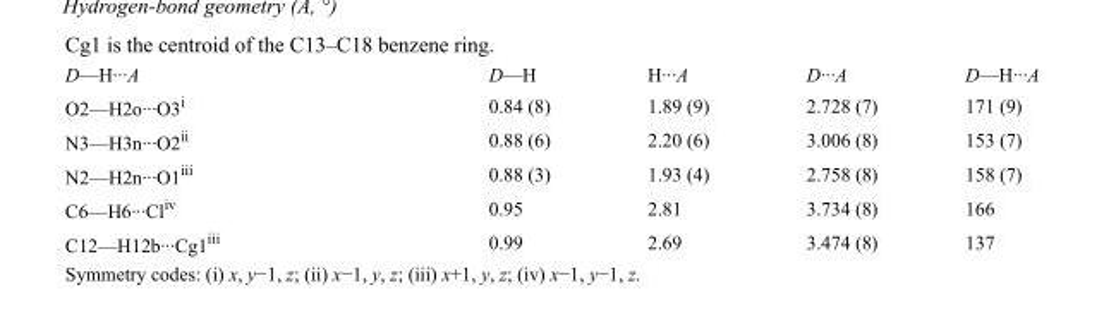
<table><tbody><tr><td>D—H···A</td><td>D—H</td><td>H···A</td><td>D···A</td><td>D—H···A</td></tr><tr><td>O2—H2o···O3<sup>i</sup></td><td>0.84 (8)</td><td>1.89 (9)</td><td>2.728 (7)</td><td>171 (9)</td></tr><tr><td>N3—H3n···O2<sup>ii</sup></td><td>0.88 (6)</td><td>2.20 (6)</td><td>3.006 (8)</td><td>153 (7)</td></tr><tr><td>N2—H2n···O1<sup>iii</sup></td><td>0.88 (3)</td><td>1.93 (4)</td><td>2.758 (8)</td><td>158 (7)</td></tr><tr><td>C6—H6···Cl<sup>iv</sup></td><td>0.95</td><td>2.81</td><td>3.734 (8)</td><td>166</td></tr><tr><td>C12—H12b···Cg1<sup>iii</sup></td><td>0.99</td><td>2.69</td><td>3.474 (8)</td><td>137</td></tr></tbody></table>